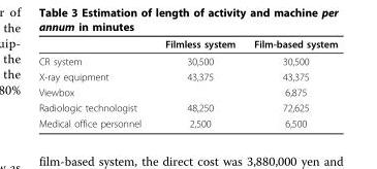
<table><thead><tr><td></td><td>Filmless system</td><td>Film-based system</td></tr></thead><tbody><tr><td>CR system</td><td>30,500</td><td>30,500</td></tr><tr><td>X-ray equipment</td><td>43,375</td><td>43,375</td></tr><tr><td>Viewbox</td><td></td><td>6,875</td></tr><tr><td>Radiologic technologist</td><td>48,250</td><td>72,625</td></tr><tr><td>Medical office personnel</td><td>2,500</td><td>6,500</td></tr></tbody></table>